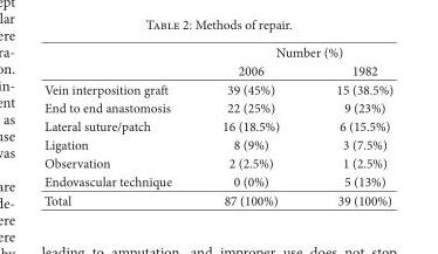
<table><thead><tr><td rowspan="2"></td><td colspan="2">Number (%)</td></tr><tr><td>2006</td><td>1982</td></tr></thead><tbody><tr><td>Vein interposition gra</td><td>39 (45%)</td><td>15 (38.5%)</td></tr><tr><td>End to end anastomosis</td><td>22 (25%)</td><td>9 (23%)</td></tr><tr><td>Lateral suture/patch</td><td>16 (18.5%)</td><td>6 (15.5%)</td></tr><tr><td>Ligation</td><td>8 (9%)</td><td>3 (7.5%)</td></tr><tr><td>Observation</td><td>2 (2.5%)</td><td>1 (2.5%)</td></tr><tr><td>Endovascular technique</td><td>0 (0%)</td><td>5 (13%)</td></tr><tr><td>Total</td><td>87 (100%)</td><td>39 (100%)</td></tr></tbody></table>